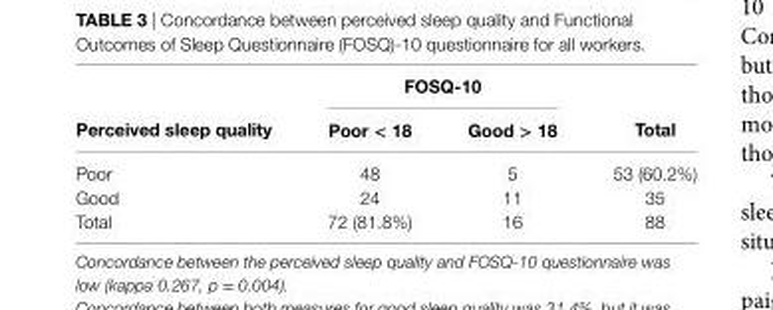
<table><thead><tr><td rowspan="2">Perceived sleep quality</td><td colspan="2">FOsQ-10</td><td rowspan="2">Total</td></tr><tr><td>Poor &lt; 18</td><td>good &gt; 18</td></tr></thead><tbody><tr><td>Poor</td><td>48</td><td>5</td><td>53 (60.2%)</td></tr><tr><td>Good</td><td>24</td><td>11</td><td>35</td></tr><tr><td>Total</td><td>72 (81.8%)</td><td>16</td><td>88</td></tr></tbody></table>